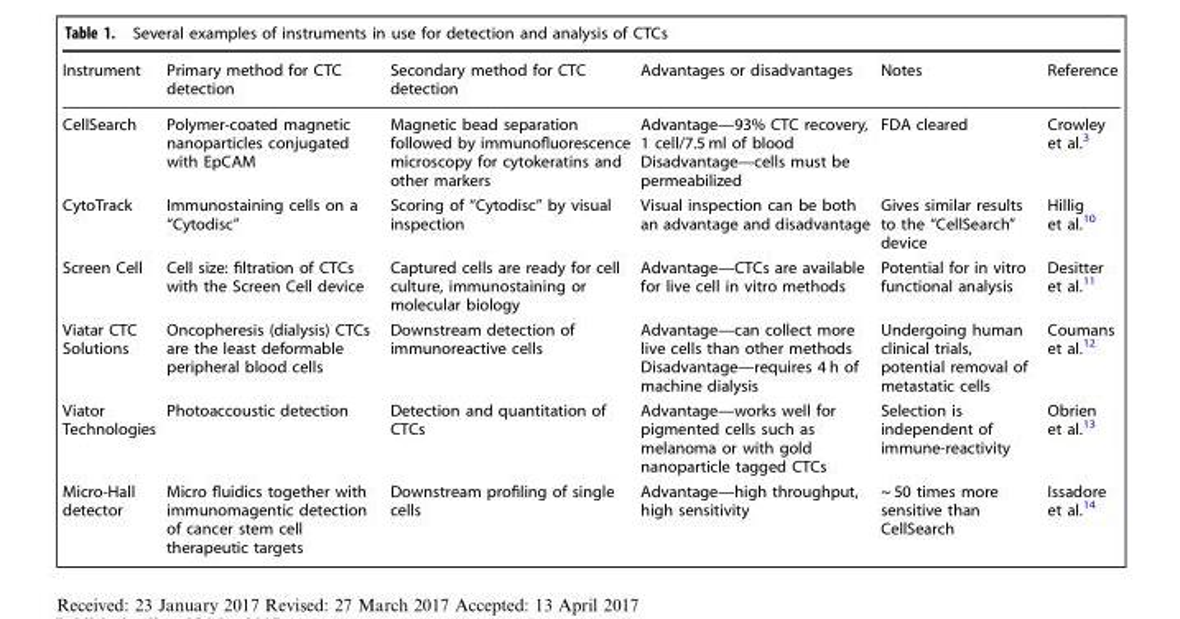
<table><thead><tr><td>Instrument</td><td>Primary method for CTC detection</td><td>Secondary method for CTC detection</td><td>Advantages or disadvantages</td><td>Notes</td><td>Reference</td></tr></thead><tbody><tr><td>CellSearch</td><td>Polymer-coated magnetic nanoparticles conjugated with EpCAM</td><td>Magnetic bead separation followed by immunofluorescence microscopy for cytokeratins and other markers</td><td>Advantage—93% CTC recovery, 1 cell/7.5 ml of blood Disadvantage—cells must be permeabilized</td><td>FDA cleared</td><td>Crowley et al.<sup>3</sup></td></tr><tr><td>CytoTrack</td><td>Immunostaining cells on a “Cytodisc”</td><td>Scoring of “Cytodisc” by visual inspection</td><td>Visual inspection can be both an advantage and disadvantage</td><td>Gives similar results to the “CellSearch” device</td><td>Hillig et al.<sup>10</sup></td></tr><tr><td>Screen Cell</td><td>Cell size: filtration of CTCs with the Screen Cell device</td><td>Captured cells are ready for cell culture, immunostaining or molecular biology</td><td>Advantage—CTCs are available for live cell in vitro methods</td><td>Potential for in vitro functional analysis</td><td>Desitter et al.<sup>11</sup></td></tr><tr><td>Viatar CTC Solutions</td><td>Oncopheresis (dialysis) CTCs are the least deformable peripheral blood cells</td><td>Downstream detection of immunoreactive cells</td><td>Advantage—can collect more live cells than other methods Disadvantage—requires 4 h of machine dialysis</td><td>Undergoing human clinical trials, potential removal of metastatic cells</td><td>Coumans et al.<sup>12</sup></td></tr><tr><td>Viator Technologies</td><td>Photoaccoustic detection</td><td>Detection and quantitation of CTCs</td><td>Advantage—works well for pigmented cells such as melanoma or with gold nanoparticle tagged CTCs</td><td>Selection is independent of immune-reactivity</td><td>Obrien et al.<sup>13</sup></td></tr><tr><td>Micro-Hall detector</td><td>Micro fluidics together with immunomagentic detection of cancer stem cell therapeutic targets</td><td>Downstream profiling of single cells</td><td>Advantage—high throughput, high sensitivity</td><td>~ 50 times more sensitive than CellSearch</td><td>Issadore et al.<sup>14</sup></td></tr></tbody></table>